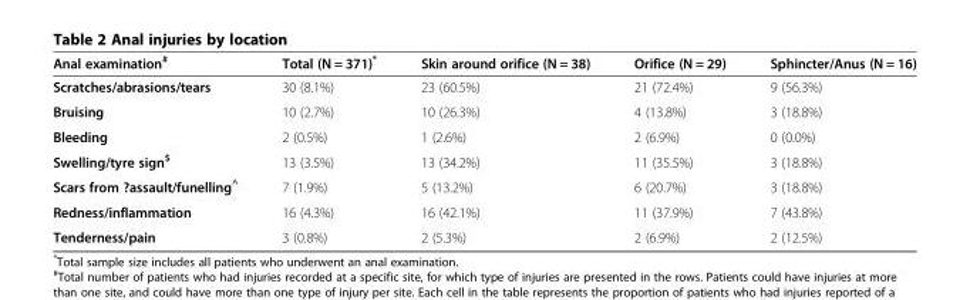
<table><thead><tr><td>Anal examination<sup>#</sup></td><td>Total (N = 371)*</td><td>Skin around orifice (N = 38)</td><td>Orifice (N = 29)</td><td>Sphincter/Anus (N = 16)</td></tr></thead><tbody><tr><td>Scratches/abrasions/tears</td><td>30 (8.1%)</td><td>23 (60.5%)</td><td>21 (72.4%)</td><td>9 (56.3%)</td></tr><tr><td>Bruising</td><td>10 (2.7%)</td><td>10 (26.3%)</td><td>4 (13.8%)</td><td>3 (18.8%)</td></tr><tr><td>Bleeding</td><td>2 (0.5%)</td><td>1 (2.6%)</td><td>2 (6.9%)</td><td>0 (0.0%)</td></tr><tr><td>Swelling/tyre sign<sup>$</sup></td><td>13 (3.5%)</td><td>13 (34.2%)</td><td>11 (35.5%)</td><td>3 (18.8%)</td></tr><tr><td>Scars from ?assault/funelling<sup>^</sup></td><td>7 (1.9%)</td><td>5 (13.2%)</td><td>6 (20.7%)</td><td>3 (18.8%)</td></tr><tr><td>Redness/inflammation</td><td>16 (4.3%)</td><td>16 (42.1%)</td><td>11 (37.9%)</td><td>7 (43.8%)</td></tr><tr><td>Tenderness/pain</td><td>3 (0.8%)</td><td>2 (5.3%)</td><td>2 (6.9%)</td><td>2 (12.5%)</td></tr></tbody></table>